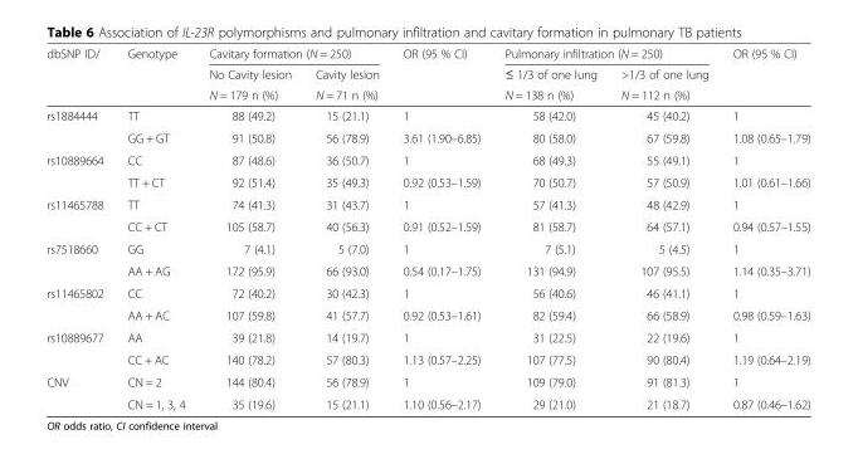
<table><thead><tr><td rowspan="3">dbSNP ID/</td><td rowspan="3">Genotype</td><td colspan="2">Cavitary formation (N = 250)</td><td rowspan="3">OR (95 % CI)</td><td colspan="2">Pulmonary infiltration (N = 250)</td><td rowspan="3">OR (95 % CI)</td></tr><tr><td rowspan="2">No Cavity lesion N = 179 n (%)</td><td rowspan="2">Cavity lesion N = 71 n (%)</td><td rowspan="2">≤ 1/3 of one lung N = 138 n (%)</td><td rowspan="2">&gt;1/3 of one lung N = 112 n (%)</td></tr><tr></tr></thead><tbody><tr><td rowspan="2">rs1884444</td><td>TT</td><td>88 (49.2)</td><td>15 (21.1)</td><td>1</td><td>58 (42.0)</td><td>45 (40.2)</td><td>1</td></tr><tr><td>GG + GT</td><td>91 (50.8)</td><td>56 (78.9)</td><td>3.61 (1.90–6.85)</td><td>80 (58.0)</td><td>67 (59.8)</td><td>1.08 (0.65–1.79)</td></tr><tr><td rowspan="2">rs10889664</td><td>CC</td><td>87 (48.6)</td><td>36 (50.7)</td><td>1</td><td>68 (49.3)</td><td>55 (49.1)</td><td>1</td></tr><tr><td>TT + CT</td><td>92 (51.4)</td><td>35 (49.3)</td><td>0.92 (0.53–1.59)</td><td>70 (50.7)</td><td>57 (50.9)</td><td>1.01 (0.61–1.66)</td></tr><tr><td rowspan="2">rs11465788</td><td>TT</td><td>74 (41.3)</td><td>31 (43.7)</td><td>1</td><td>57 (41.3)</td><td>48 (42.9)</td><td>1</td></tr><tr><td>CC + CT</td><td>105 (58.7)</td><td>40 (56.3)</td><td>0.91 (0.52–1.59)</td><td>81 (58.7)</td><td>64 (57.1)</td><td>0.94 (0.57–1.55)</td></tr><tr><td rowspan="2">rs7518660</td><td>GG</td><td>7 (4.1)</td><td>5 (7.0)</td><td>1</td><td>7 (5.1)</td><td>5 (4.5)</td><td>1</td></tr><tr><td>AA + AG</td><td>172 (95.9)</td><td>66 (93.0)</td><td>0.54 (0.17–1.75)</td><td>131 (94.9)</td><td>107 (95.5)</td><td>1.14 (0.35–3.71)</td></tr><tr><td rowspan="2">rs11465802</td><td>CC</td><td>72 (40.2)</td><td>30 (42.3)</td><td>1</td><td>56 (40.6)</td><td>46 (41.1)</td><td>1</td></tr><tr><td>AA + AC</td><td>107 (59.8)</td><td>41 (57.7)</td><td>0.92 (0.53–1.61)</td><td>82 (59.4)</td><td>66 (58.9)</td><td>0.98 (0.59–1.63)</td></tr><tr><td rowspan="2">rs10889677</td><td>AA</td><td>39 (21.8)</td><td>14 (19.7)</td><td>1</td><td>31 (22.5)</td><td>22 (19.6)</td><td>1</td></tr><tr><td>CC + AC</td><td>140 (78.2)</td><td>57 (80.3)</td><td>1.13 (0.57–2.25)</td><td>107 (77.5)</td><td>90 (80.4)</td><td>1.19 (0.64–2.19)</td></tr><tr><td rowspan="2">CNV</td><td>CN = 2</td><td>144 (80.4)</td><td>56 (78.9)</td><td>1</td><td>109 (79.0)</td><td>91 (81.3)</td><td>1</td></tr><tr><td>CN = 1, 3, 4</td><td>35 (19.6)</td><td>15 (21.1)</td><td>1.10 (0.56–2.17)</td><td>29 (21.0)</td><td>21 (18.7)</td><td>0.87 (0.46–1.62)</td></tr></tbody></table>